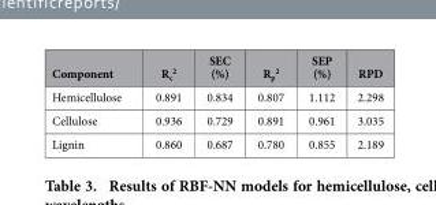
<table><thead><tr><td>Component</td><td>R<sub>c</sub> <sup>2</sup></td><td>SEC (%)</td><td>R<sub>p</sub> <sup>2</sup></td><td>SEP (%)</td><td>RPD</td></tr></thead><tbody><tr><td>Hemicellulose</td><td>0.891</td><td>0.834</td><td>0.807</td><td>1.112</td><td>2.298</td></tr><tr><td>Cellulose</td><td>0.936</td><td>0.729</td><td>0.891</td><td>0.961</td><td>3.035</td></tr><tr><td>Lignin</td><td>0.860</td><td>0.687</td><td>0.780</td><td>0.855</td><td>2.189</td></tr></tbody></table>